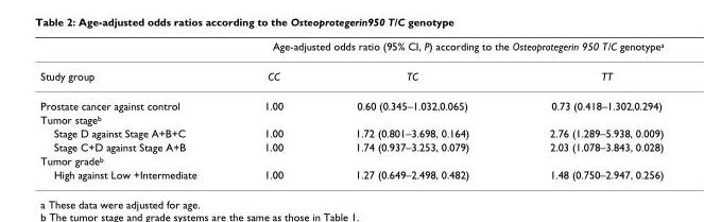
<table><thead><tr><td rowspan="2">Study group</td><td colspan="3">Age-adjusted odds ratio (95% CI, P) according to the Osteoprotegerin 950 T/C genotype<sup>a</sup></td></tr><tr><td>CC</td><td>TC</td><td>TT</td></tr></thead><tbody><tr><td>Prostate cancer against control</td><td>1.00</td><td>0.60 (0.345–1.032,0.065)</td><td>0.73 (0.418–1.302,0.294)</td></tr><tr><td colspan="4">Tumor stage<sup>b</sup></td></tr><tr><td>Stage D against Stage A+B+C</td><td>1.00</td><td>1.72 (0.801–3.698, 0.164)</td><td>2.76 (1.289–5.938, 0.009)</td></tr><tr><td>Stage C+D against Stage A+B</td><td>1.00</td><td>1.74 (0.937–3.253, 0.079)</td><td>2.03 (1.078–3.843, 0.028)</td></tr><tr><td colspan="4">Tumor grade<sup>b</sup></td></tr><tr><td>High against Low +Intermediate</td><td>1.00</td><td>1.27 (0.649–2.498, 0.482)</td><td>1.48 (0.750–2.947, 0.256)</td></tr></tbody></table>